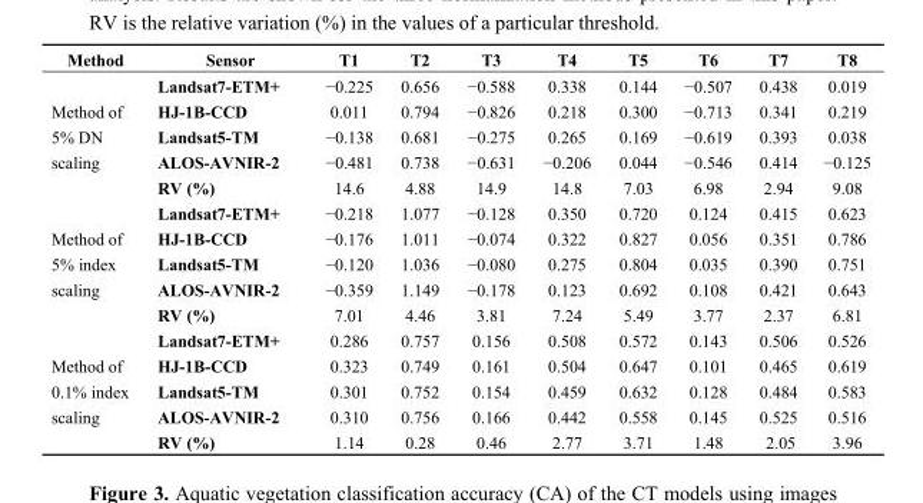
<table><thead><tr><td>Method</td><td>Sensor</td><td>T1</td><td>T2</td><td>T3</td><td>T4</td><td>T5</td><td>T6</td><td>T7</td><td>T8</td></tr></thead><tbody><tr><td rowspan="5">Method of 5% DN scaling</td><td>Landsat7-ETM+</td><td>−0.225</td><td>0.656</td><td>−0.588</td><td>0.338</td><td>0.144</td><td>−0.507</td><td>0.438</td><td>0.019</td></tr><tr><td>HJ-1B-CCD</td><td>0.011</td><td>0.794</td><td>−0.826</td><td>0.218</td><td>0.300</td><td>−0.713</td><td>0.341</td><td>0.219</td></tr><tr><td>Landsat5-TM</td><td>−0.138</td><td>0.681</td><td>−0.275</td><td>0.265</td><td>0.169</td><td>−0.619</td><td>0.393</td><td>0.038</td></tr><tr><td>ALOS-AVNIR-2</td><td>−0.481</td><td>0.738</td><td>−0.631</td><td>−0.206</td><td>0.044</td><td>−0.546</td><td>0.414</td><td>−0.125</td></tr><tr><td>RV (%)</td><td>14.6</td><td>4.88</td><td>14.9</td><td>14.8</td><td>7.03</td><td>6.98</td><td>2.94</td><td>9.08</td></tr><tr><td rowspan="5">Method of 5% index scaling</td><td>Landsat7-ETM+</td><td>−0.218</td><td>1.077</td><td>−0.128</td><td>0.350</td><td>0.720</td><td>0.124</td><td>0.415</td><td>0.623</td></tr><tr><td>HJ-1B-CCD</td><td>−0.176</td><td>1.011</td><td>−0.074</td><td>0.322</td><td>0.827</td><td>0.056</td><td>0.351</td><td>0.786</td></tr><tr><td>Landsat5-TM</td><td>−0.120</td><td>1.036</td><td>−0.080</td><td>0.275</td><td>0.804</td><td>0.035</td><td>0.390</td><td>0.751</td></tr><tr><td>ALOS-AVNIR-2</td><td>−0.359</td><td>1.149</td><td>−0.178</td><td>0.123</td><td>0.692</td><td>0.108</td><td>0.421</td><td>0.643</td></tr><tr><td>RV (%)</td><td>7.01</td><td>4.46</td><td>3.81</td><td>7.24</td><td>5.49</td><td>3.77</td><td>2.37</td><td>6.81</td></tr><tr><td rowspan="5">Method of 0.1% index scaling</td><td>Landsat7-ETM+</td><td>0.286</td><td>0.757</td><td>0.156</td><td>0.508</td><td>0.572</td><td>0.143</td><td>0.506</td><td>0.526</td></tr><tr><td>HJ-1B-CCD</td><td>0.323</td><td>0.749</td><td>0.161</td><td>0.504</td><td>0.647</td><td>0.101</td><td>0.465</td><td>0.619</td></tr><tr><td>Landsat5-TM</td><td>0.301</td><td>0.752</td><td>0.154</td><td>0.459</td><td>0.632</td><td>0.128</td><td>0.484</td><td>0.583</td></tr><tr><td>ALOS-AVNIR-2</td><td>0.310</td><td>0.756</td><td>0.166</td><td>0.442</td><td>0.558</td><td>0.145</td><td>0.525</td><td>0.516</td></tr><tr><td>RV (%)</td><td>1.14</td><td>0.28</td><td>0.46</td><td>2.77</td><td>3.71</td><td>1.48</td><td>2.05</td><td>3.96</td></tr></tbody></table>